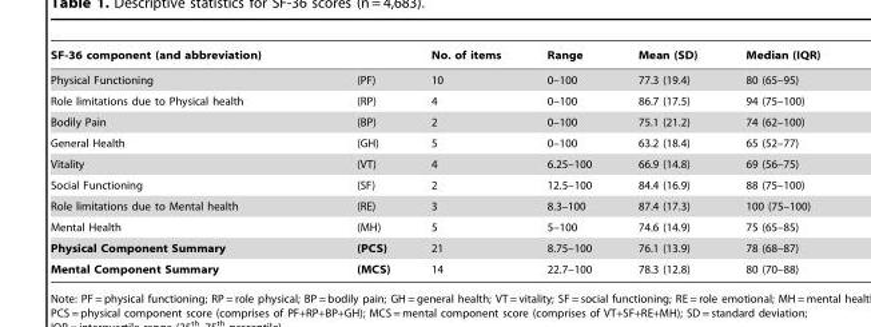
<table><thead><tr><td>SF-36 component (and abbreviation)</td><td></td><td>No. of items</td><td>Range</td><td>Mean (SD)</td><td>Median (IQR)</td></tr></thead><tbody><tr><td>Physical Functioning</td><td>(PF)</td><td>10</td><td>0–100</td><td>77.3 (19.4)</td><td>80 (65–95)</td></tr><tr><td>Role limitations due to Physical health</td><td>(RP)</td><td>4</td><td>0–100</td><td>86.7 (17.5)</td><td>94 (75–100)</td></tr><tr><td>Bodily Pain</td><td>(BP)</td><td>2</td><td>0–100</td><td>75.1 (21.2)</td><td>74 (62–100)</td></tr><tr><td>General Health</td><td>(GH)</td><td>5</td><td>0–100</td><td>63.2 (18.4)</td><td>65 (52–77)</td></tr><tr><td>Vitality</td><td>(VT)</td><td>4</td><td>6.25–100</td><td>66.9 (14.8)</td><td>69 (56–75)</td></tr><tr><td>Social Functioning</td><td>(SF)</td><td>2</td><td>12.5–100</td><td>84.4 (16.9)</td><td>88 (75–100)</td></tr><tr><td>Role limitations due to Mental health</td><td>(RE)</td><td>3</td><td>8.3–100</td><td>87.4 (17.3)</td><td>100 (75–100)</td></tr><tr><td>Mental Health</td><td>(MH)</td><td>5</td><td>5–100</td><td>74.6 (14.9)</td><td>75 (65–85)</td></tr><tr><td>Physical Component Summary</td><td>(PCS)</td><td>21</td><td>8.75–100</td><td>76.1 (13.9)</td><td>78 (68–87)</td></tr><tr><td>Mental Component Summary</td><td>(MCS)</td><td>14</td><td>22.7–100</td><td>78.3 (12.8)</td><td>80 (70–88)</td></tr></tbody></table>